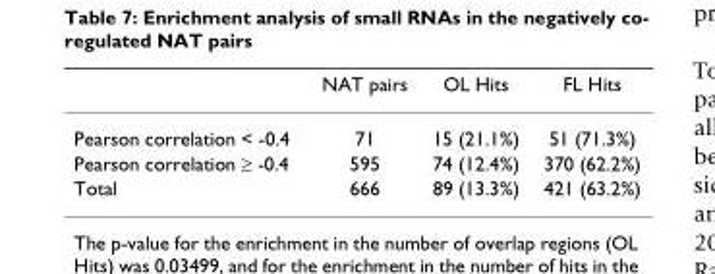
<table><thead><tr><td></td><td>NAT pairs</td><td>OL Hits</td><td>FL Hits</td></tr></thead><tbody><tr><td>Pearson correlation &lt; -0.4</td><td>71</td><td>15 (21.1%)</td><td>51 (71.3%)</td></tr><tr><td>Pearson correlation ≥ -0.4</td><td>595</td><td>74 (12.4%)</td><td>370 (62.2%)</td></tr><tr><td>Total</td><td>666</td><td>89 (13.3%)</td><td>421 (63.2%)</td></tr></tbody></table>